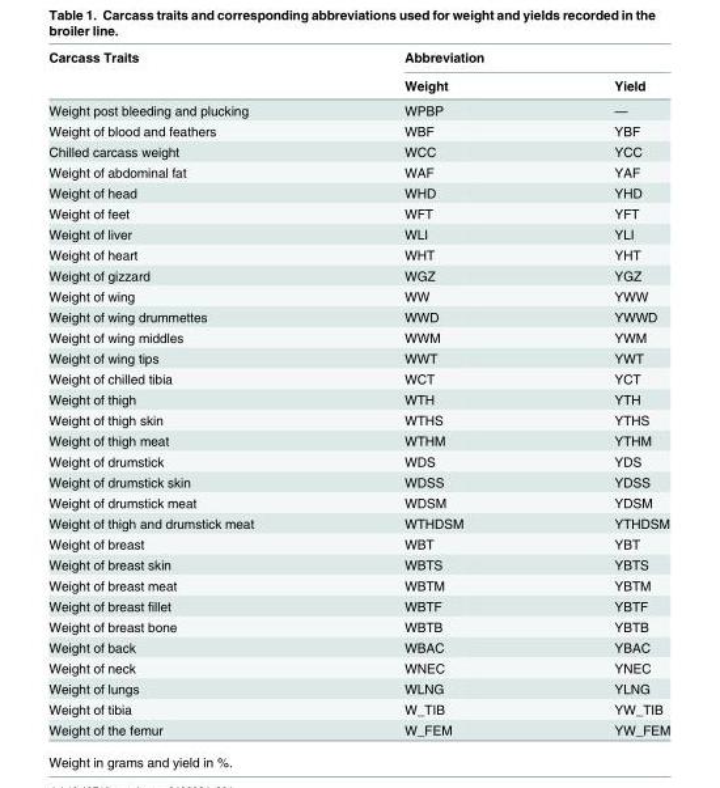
<table><thead><tr><td rowspan="2">Carcass Traits</td><td colspan="2">Abbreviation</td></tr><tr><td>Weight</td><td>Yield</td></tr></thead><tbody><tr><td>Weight post bleeding and plucking</td><td>WPBP</td><td>—</td></tr><tr><td>Weight of blood and feathers</td><td>WBF</td><td>YBF</td></tr><tr><td>Chilled carcass weight</td><td>WCC</td><td>YCC</td></tr><tr><td>Weight of abdominal fat</td><td>WAF</td><td>YAF</td></tr><tr><td>Weight of head</td><td>WHD</td><td>YHD</td></tr><tr><td>Weight of feet</td><td>WFT</td><td>YFT</td></tr><tr><td>Weight of liver</td><td>WLI</td><td>YLI</td></tr><tr><td>Weight of heart</td><td>WHT</td><td>YHT</td></tr><tr><td>Weight of gizzard</td><td>WGZ</td><td>YGZ</td></tr><tr><td>Weight of wing</td><td>WW</td><td>YWW</td></tr><tr><td>Weight of wing drummettes</td><td>WWD</td><td>YWWD</td></tr><tr><td>Weight of wing middles</td><td>WWM</td><td>YWM</td></tr><tr><td>Weight of wing tips</td><td>WWT</td><td>YWT</td></tr><tr><td>Weight of chilled tibia</td><td>WCT</td><td>YCT</td></tr><tr><td>Weight of thigh</td><td>WTH</td><td>YTH</td></tr><tr><td>Weight of thigh skin</td><td>WTHS</td><td>YTHS</td></tr><tr><td>Weight of thigh meat</td><td>WTHM</td><td>YTHM</td></tr><tr><td>Weight of drumstick</td><td>WDS</td><td>YDS</td></tr><tr><td>Weight of drumstick skin</td><td>WDSS</td><td>YDSS</td></tr><tr><td>Weight of drumstick meat</td><td>WDSM</td><td>YDSM</td></tr><tr><td>Weight of thigh and drumstick meat</td><td>WTHDSM</td><td>YTHDSM</td></tr><tr><td>Weight of breast</td><td>WBT</td><td>YBT</td></tr><tr><td>Weight of breast skin</td><td>WBTS</td><td>YBTS</td></tr><tr><td>Weight of breast meat</td><td>WBTM</td><td>YBTM</td></tr><tr><td>Weight of breast fillet</td><td>WBTF</td><td>YBTF</td></tr><tr><td>Weight of breast bone</td><td>WBTB</td><td>YBTB</td></tr><tr><td>Weight of back</td><td>WBAC</td><td>YBAC</td></tr><tr><td>Weight of neck</td><td>WNEC</td><td>YNEC</td></tr><tr><td>Weight of lungs</td><td>WLNG</td><td>YLNG</td></tr><tr><td>Weight of tibia</td><td>W_TIB</td><td>YW_TIB</td></tr><tr><td>Weight of the femur</td><td>W_FEM</td><td>YW_FEM</td></tr></tbody></table>